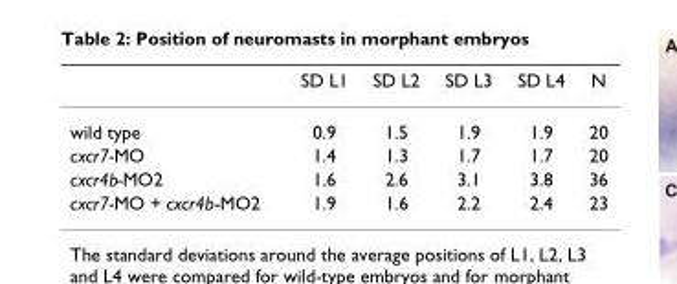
<table><thead><tr><td></td><td>SD L1</td><td>SD L2</td><td>SD L3</td><td>SD L4</td><td>N</td></tr></thead><tbody><tr><td>wild type</td><td>0.9</td><td>1.5</td><td>1.9</td><td>1.9</td><td>20</td></tr><tr><td>cxcr7-MO</td><td>1.4</td><td>1.3</td><td>1.7</td><td>1.7</td><td>20</td></tr><tr><td>cxcr4b-MO2</td><td>1.6</td><td>2.6</td><td>3.1</td><td>3.8</td><td>36</td></tr><tr><td>cxcr7-MO + cxcr4b-MO2</td><td>1.9</td><td>1.6</td><td>2.2</td><td>2.4</td><td>23</td></tr></tbody></table>